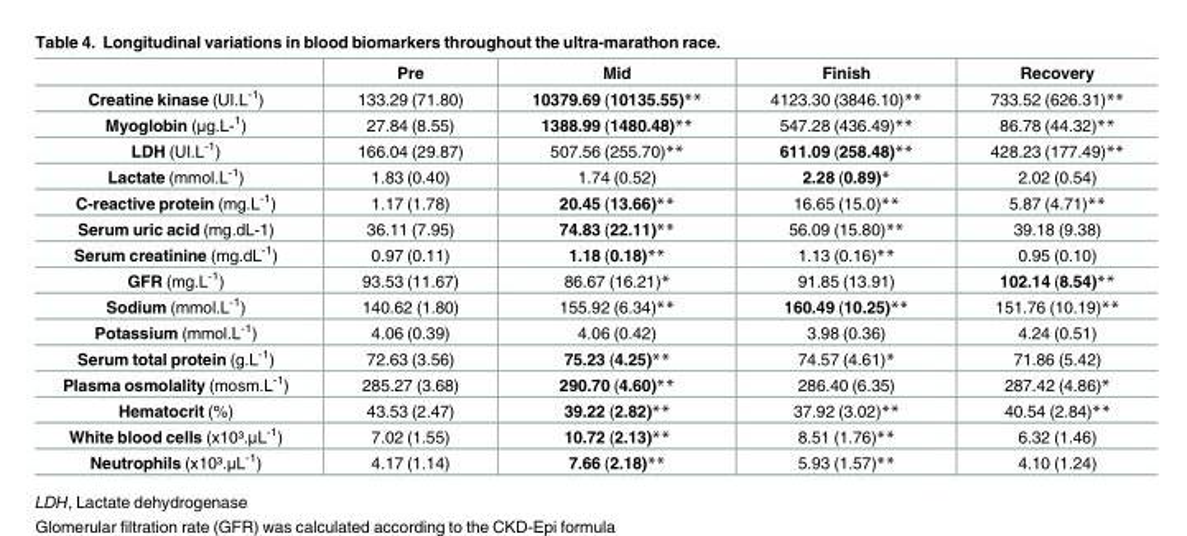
<table><thead><tr><td></td><td>Pre</td><td>Mid</td><td>Finish</td><td>Recovery</td></tr></thead><tbody><tr><td>Creatine kinase (UI.L<sup>-1</sup>)</td><td>133.29 (71.80)</td><td>10379.69 (10135.55)**</td><td>4123.30 (3846.10)**</td><td>733.52 (626.31)**</td></tr><tr><td>Myoglobin (μg.L-<sup>1</sup>)</td><td>27.84 (8.55)</td><td>1388.99 (1480.48)**</td><td>547.28 (436.49)**</td><td>86.78 (44.32)**</td></tr><tr><td>LDH (UI.L<sup>-1</sup>)</td><td>166.04 (29.87)</td><td>507.56 (255.70)**</td><td>611.09 (258.48)**</td><td>428.23 (177.49)**</td></tr><tr><td>Lactate (mmol.L<sup>-1</sup>)</td><td>1.83 (0.40)</td><td>1.74 (0.52)</td><td>2.28 (0.89)*</td><td>2.02 (0.54)</td></tr><tr><td>C-reactive protein (mg.L<sup>-1</sup>)</td><td>1.17 (1.78)</td><td>20.45 (13.66)**</td><td>16.65 (15.0)**</td><td>5.87 (4.71)**</td></tr><tr><td>Serum uric acid (mg.dL-1)</td><td>36.11 (7.95)</td><td>74.83 (22.11)**</td><td>56.09 (15.80)**</td><td>39.18 (9.38)</td></tr><tr><td>Serum creatinine (mg.dL<sup>-1</sup>)</td><td>0.97 (0.11)</td><td>1.18 (0.18)**</td><td>1.13 (0.16)**</td><td>0.95 (0.10)</td></tr><tr><td>GFR (mg.L<sup>-1</sup>)</td><td>93.53 (11.67)</td><td>86.67 (16.21)*</td><td>91.85 (13.91)</td><td>102.14 (8.54)**</td></tr><tr><td>Sodium (mmol.L<sup>-1</sup>)</td><td>140.62 (1.80)</td><td>155.92 (6.34)**</td><td>160.49 (10.25)**</td><td>151.76 (10.19)**</td></tr><tr><td>Potassium (mmol.L<sup>-1</sup>)</td><td>4.06 (0.39)</td><td>4.06 (0.42)</td><td>3.98 (0.36)</td><td>4.24 (0.51)</td></tr><tr><td>Serum total protein (g.L<sup>-1</sup>)</td><td>72.63 (3.56)</td><td>75.23 (4.25)**</td><td>74.57 (4.61)*</td><td>71.86 (5.42)</td></tr><tr><td>Plasma osmolality (mosm.L<sup>-1</sup>)</td><td>285.27 (3.68)</td><td>290.70 (4.60)**</td><td>286.40 (6.35)</td><td>287.42 (4.86)*</td></tr><tr><td>Hematocrit (%)</td><td>43.53 (2.47)</td><td>39.22 (2.82)**</td><td>37.92 (3.02)**</td><td>40.54 (2.84)**</td></tr><tr><td>White blood cells (x10³.μL<sup>-1</sup>)</td><td>7.02 (1.55)</td><td>10.72 (2.13)**</td><td>8.51 (1.76)**</td><td>6.32 (1.46)</td></tr><tr><td>Neutrophils (x10³.μL<sup>-1</sup>)</td><td>4.17 (1.14)</td><td>7.66 (2.18)**</td><td>5.93 (1.57)**</td><td>4.10 (1.24)</td></tr></tbody></table>